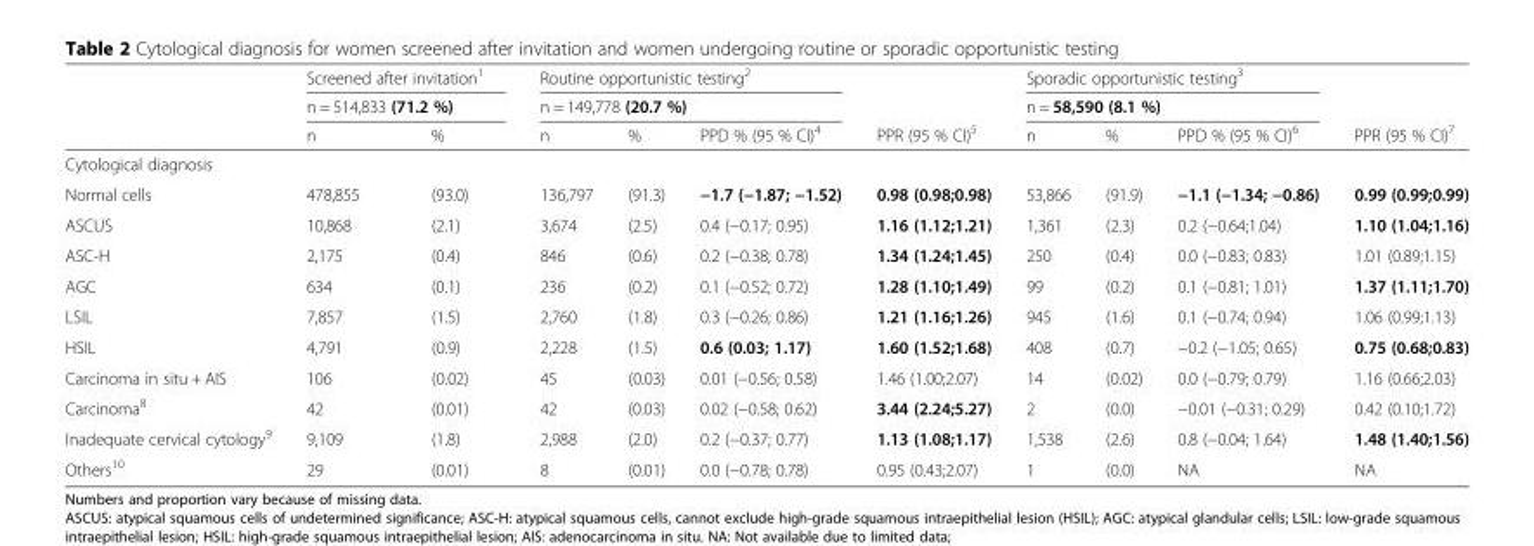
<table><thead><tr><td rowspan="3"></td><td rowspan="2" colspan="2">Screened after invitation<sup>1</sup> n = 514,833 (71.2 %)</td><td rowspan="2" colspan="3">Routine opportunistic testing<sup>2</sup> n = 149,778 (20.7 %)</td><td rowspan="3">PPR (95 % CI)<sup>5</sup></td><td rowspan="2" colspan="3">Sporadic opportunistic testing<sup>3</sup> n = 58,590 (8.1 %)</td><td rowspan="3">PPR (95 % CI)<sup>7</sup></td></tr><tr></tr><tr><td>n</td><td>%</td><td>n</td><td>%</td><td>PPD % (95 % CI)<sup>4</sup></td><td>n</td><td>%</td><td>PPD % (95 % CI)<sup>6</sup></td></tr></thead><tbody><tr><td colspan="11">Cytological diagnosis</td></tr><tr><td>Normal cells</td><td>478,855</td><td>(93.0)</td><td>136,797</td><td>(91.3)</td><td>−1.7 (−1.87; −1.52)</td><td>0.98 (0.98;0.98)</td><td>53,866</td><td>(91.9)</td><td>−1.1 (−1.34; −0.86)</td><td>0.99 (0.99;0.99)</td></tr><tr><td>ASCUS</td><td>10,868</td><td>(2.1)</td><td>3,674</td><td>(2.5)</td><td>0.4 (−0.17; 0.95)</td><td>1.16 (1.12;1.21)</td><td>1,361</td><td>(2.3)</td><td>0.2 (−0.64;1.04)</td><td>1.10 (1.04;1.16)</td></tr><tr><td>ASC-H</td><td>2,175</td><td>(0.4)</td><td>846</td><td>(0.6)</td><td>0.2 (−0.38; 0.78)</td><td>1.34 (1.24;1.45)</td><td>250</td><td>(0.4)</td><td>0.0 (−0.83; 0.83)</td><td>1.01 (0.89;1.15)</td></tr><tr><td>AGC</td><td>634</td><td>(0.1)</td><td>236</td><td>(0.2)</td><td>0.1 (−0.52; 0.72)</td><td>1.28 (1.10;1.49)</td><td>99</td><td>(0.2)</td><td>0.1 (−0.81; 1.01)</td><td>1.37 (1.11;1.70)</td></tr><tr><td>LSIL</td><td>7,857</td><td>(1.5)</td><td>2,760</td><td>(1.8)</td><td>0.3 (−0.26; 0.86)</td><td>1.21 (1.16;1.26)</td><td>945</td><td>(1.6)</td><td>0.1 (−0.74; 0.94)</td><td>1.06 (0.99;1.13)</td></tr><tr><td>HSIL</td><td>4,791</td><td>(0.9)</td><td>2,228</td><td>(1.5)</td><td>0.6 (0.03; 1.17)</td><td>1.60 (1.52;1.68)</td><td>408</td><td>(0.7)</td><td>−0.2 (−1.05; 0.65)</td><td>0.75 (0.68;0.83)</td></tr><tr><td>Carcinoma in situ + AIS</td><td>106</td><td>(0.02)</td><td>45</td><td>(0.03)</td><td>0.01 (−0.56; 0.58)</td><td>1.46 (1.00;2.07)</td><td>14</td><td>(0.02)</td><td>0.0 (−0.79; 0.79)</td><td>1.16 (0.66;2.03)</td></tr><tr><td>Carcinoma<sup>8</sup></td><td>42</td><td>(0.01)</td><td>42</td><td>(0.03)</td><td>0.02 (−0.58; 0.62)</td><td>3.44 (2.24;5.27)</td><td>2</td><td>(0.0)</td><td>−0.01 (−0.31; 0.29)</td><td>0.42 (0.10;1.72)</td></tr><tr><td>Inadequate cervical cytology<sup>9</sup></td><td>9,109</td><td>(1.8)</td><td>2,988</td><td>(2.0)</td><td>0.2 (−0.37; 0.77)</td><td>1.13 (1.08;1.17)</td><td>1,538</td><td>(2.6)</td><td>0.8 (−0.04; 1.64)</td><td>1.48 (1.40;1.56)</td></tr><tr><td>Others<sup>10</sup></td><td>29</td><td>(0.01)</td><td>8</td><td>(0.01)</td><td>0.0 (−0.78; 0.78)</td><td>0.95 (0.43;2.07)</td><td>1</td><td>(0.0)</td><td>NA</td><td>NA</td></tr></tbody></table>